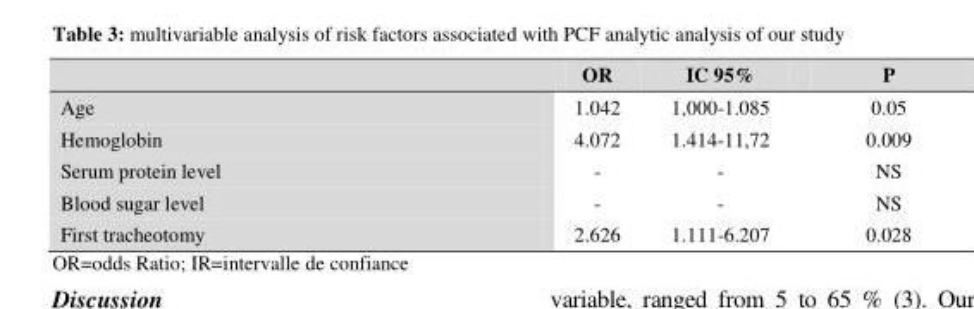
<table><thead><tr><td></td><td>OR</td><td>IC 95%</td><td>P</td></tr></thead><tbody><tr><td>Age</td><td>1.042</td><td>1,000-1.085</td><td>0.05</td></tr><tr><td>Hemoglobin</td><td>4.072</td><td>1.414-11,72</td><td>0.009</td></tr><tr><td>Serum protein level</td><td>-</td><td>-</td><td>NS</td></tr><tr><td>Blood sugar level</td><td>-</td><td>-</td><td>NS</td></tr><tr><td>First tracheotomy</td><td>2.626</td><td>1.111-6.207</td><td>0.028</td></tr></tbody></table>